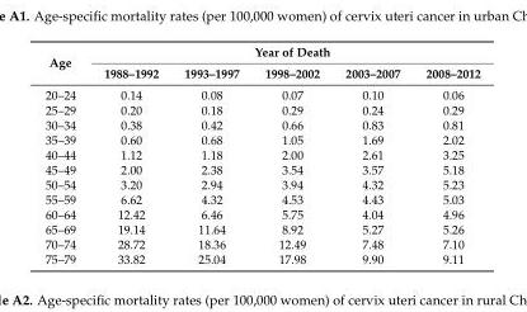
<table><thead><tr><td rowspan="2">Age</td><td colspan="5">Year of Death</td></tr><tr><td>1988–1992</td><td>1993–1997</td><td>1998–2002</td><td>2003–2007</td><td>2008–2012</td></tr></thead><tbody><tr><td>20–24</td><td>0.14</td><td>0.08</td><td>0.07</td><td>0.10</td><td>0.06</td></tr><tr><td>25–29</td><td>0.20</td><td>0.18</td><td>0.29</td><td>0.24</td><td>0.29</td></tr><tr><td>30–34</td><td>0.38</td><td>0.42</td><td>0.66</td><td>0.83</td><td>0.81</td></tr><tr><td>35–39</td><td>0.60</td><td>0.68</td><td>1.05</td><td>1.69</td><td>2.02</td></tr><tr><td>40–44</td><td>1.12</td><td>1.18</td><td>2.00</td><td>2.61</td><td>3.25</td></tr><tr><td>45–49</td><td>2.00</td><td>2.38</td><td>3.54</td><td>3.57</td><td>5.18</td></tr><tr><td>50–54</td><td>3.20</td><td>2.94</td><td>3.94</td><td>4.32</td><td>5.23</td></tr><tr><td>55–59</td><td>6.62</td><td>4.32</td><td>4.53</td><td>4.43</td><td>5.03</td></tr><tr><td>60–64</td><td>12.42</td><td>6.46</td><td>5.75</td><td>4.04</td><td>4.96</td></tr><tr><td>65–69</td><td>19.14</td><td>11.64</td><td>8.92</td><td>5.27</td><td>5.26</td></tr><tr><td>70–74</td><td>28.72</td><td>18.36</td><td>12.49</td><td>7.48</td><td>7.10</td></tr><tr><td>75–79</td><td>33.82</td><td>25.04</td><td>17.98</td><td>9.90</td><td>9.11</td></tr></tbody></table>